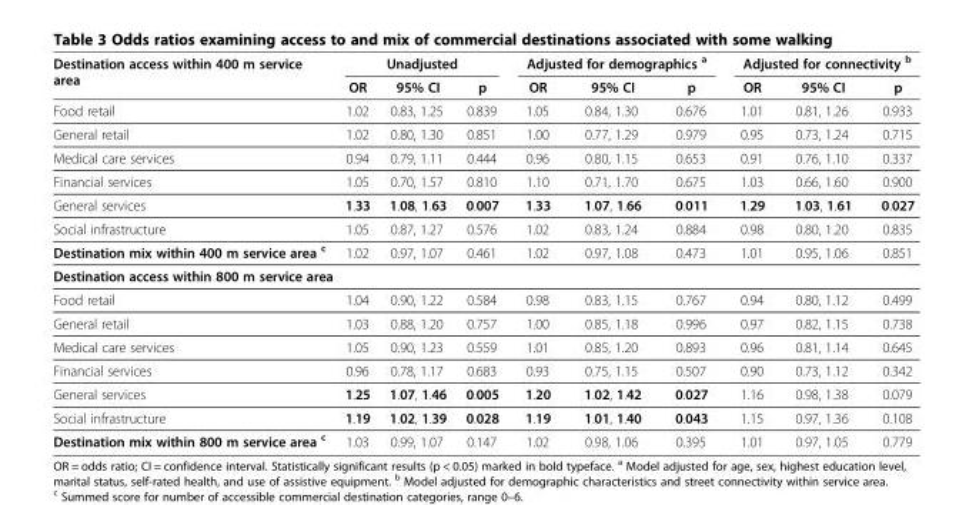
<table><thead><tr><td rowspan="2">Destination access within 400 m service area</td><td colspan="3">Unadjusted</td><td colspan="3">Adjusted for demographics <sup>a</sup></td><td colspan="3">Adjusted for connectivity <sup>b</sup></td></tr><tr><td>OR</td><td>95% CI</td><td>p</td><td>OR</td><td>95% CI</td><td>p</td><td>OR</td><td>95% CI</td><td>p</td></tr></thead><tbody><tr><td>Food retail</td><td>1.02</td><td>0.83, 1.25</td><td>0.839</td><td>1.05</td><td>0.84, 1.30</td><td>0.676</td><td>1.01</td><td>0.81, 1.26</td><td>0.933</td></tr><tr><td>General retail</td><td>1.02</td><td>0.80, 1.30</td><td>0.851</td><td>1.00</td><td>0.77, 1.29</td><td>0.979</td><td>0.95</td><td>0.73, 1.24</td><td>0.715</td></tr><tr><td>Medical care services</td><td>0.94</td><td>0.79, 1.11</td><td>0.444</td><td>0.96</td><td>0.80, 1.15</td><td>0.653</td><td>0.91</td><td>0.76, 1.10</td><td>0.337</td></tr><tr><td>Financial services</td><td>1.05</td><td>0.70, 1.57</td><td>0.810</td><td>1.10</td><td>0.71, 1.70</td><td>0.675</td><td>1.03</td><td>0.66, 1.60</td><td>0.900</td></tr><tr><td>General services</td><td>1.33</td><td>1.08, 1.63</td><td>0.007</td><td>1.33</td><td>1.07, 1.66</td><td>0.011</td><td>1.29</td><td>1.03, 1.61</td><td>0.027</td></tr><tr><td>Social infrastructure</td><td>1.05</td><td>0.87, 1.27</td><td>0.576</td><td>1.02</td><td>0.83, 1.24</td><td>0.884</td><td>0.98</td><td>0.80, 1.20</td><td>0.835</td></tr><tr><td>Destination mix within 400 m service area <sup>c</sup></td><td>1.02</td><td>0.97, 1.07</td><td>0.461</td><td>1.02</td><td>0.97, 1.08</td><td>0.473</td><td>1.01</td><td>0.95, 1.06</td><td>0.851</td></tr><tr><td colspan="10">Destination access within 800 m service area</td></tr><tr><td>Food retail</td><td>1.04</td><td>0.90, 1.22</td><td>0.584</td><td>0.98</td><td>0.83, 1.15</td><td>0.767</td><td>0.94</td><td>0.80, 1.12</td><td>0.499</td></tr><tr><td>General retail</td><td>1.03</td><td>0.88, 1.20</td><td>0.757</td><td>1.00</td><td>0.85, 1.18</td><td>0.996</td><td>0.97</td><td>0.82, 1.15</td><td>0.738</td></tr><tr><td>Medical care services</td><td>1.05</td><td>0.90, 1.23</td><td>0.559</td><td>1.01</td><td>0.85, 1.20</td><td>0.893</td><td>0.96</td><td>0.81, 1.14</td><td>0.645</td></tr><tr><td>Financial services</td><td>0.96</td><td>0.78, 1.17</td><td>0.683</td><td>0.93</td><td>0.75, 1.15</td><td>0.507</td><td>0.90</td><td>0.73, 1.12</td><td>0.342</td></tr><tr><td>General services</td><td>1.25</td><td>1.07, 1.46</td><td>0.005</td><td>1.20</td><td>1.02, 1.42</td><td>0.027</td><td>1.16</td><td>0.98, 1.38</td><td>0.079</td></tr><tr><td>Social infrastructure</td><td>1.19</td><td>1.02, 1.39</td><td>0.028</td><td>1.19</td><td>1.01, 1.40</td><td>0.043</td><td>1.15</td><td>0.97, 1.36</td><td>0.108</td></tr><tr><td>Destination mix within 800 m service area <sup>c</sup></td><td>1.03</td><td>0.99, 1.07</td><td>0.147</td><td>1.02</td><td>0.98, 1.06</td><td>0.395</td><td>1.01</td><td>0.97, 1.05</td><td>0.779</td></tr></tbody></table>